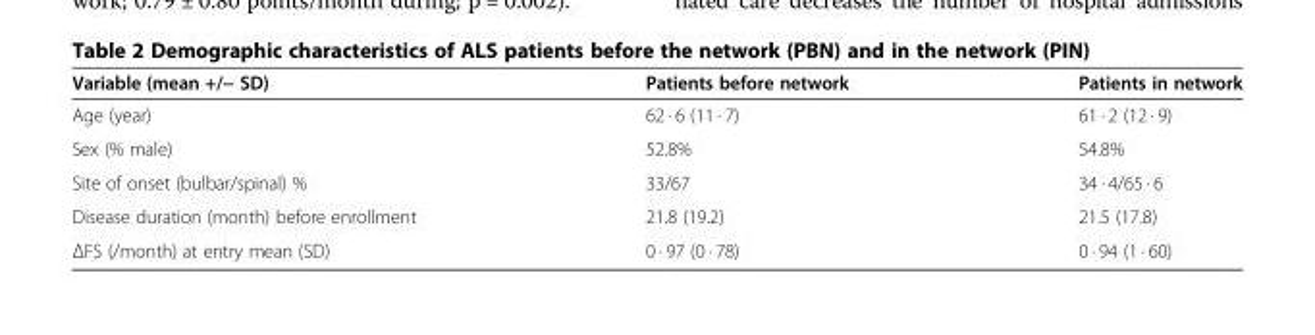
<table><thead><tr><td>Variable (mean +/− SD)</td><td>Patients before network</td><td>Patients in network</td></tr></thead><tbody><tr><td>Age (year)</td><td>62 · 6 (11 · 7)</td><td>61 · 2 (12 · 9)</td></tr><tr><td>Sex (% male)</td><td>52.8%</td><td>54.8%</td></tr><tr><td>Site of onset (bulbar/spinal) %</td><td>33/67</td><td>34 · 4/65 · 6</td></tr><tr><td>Disease duration (month) before enrollment</td><td>21.8 (19.2)</td><td>21.5 (17.8)</td></tr><tr><td>ΔFS (/month) at entry mean (SD)</td><td>0 · 97 (0 · 78)</td><td>0 · 94 (1 · 60)</td></tr></tbody></table>